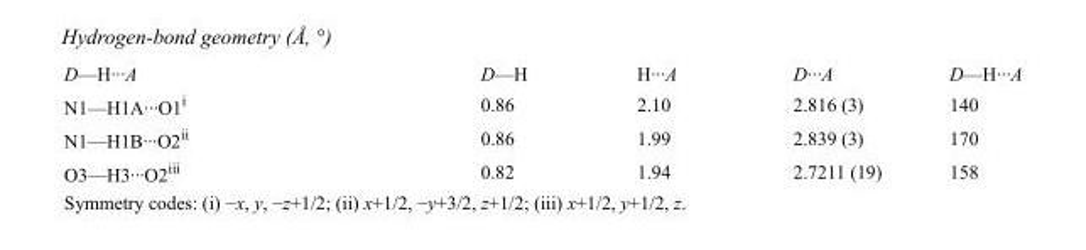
<table><tbody><tr><td>D—H···A</td><td>D—H</td><td>H···A</td><td>D···A</td><td>D—H···A</td></tr><tr><td>N1—H1A···O1<sup>i</sup></td><td>0.86</td><td>2.10</td><td>2.816 (3)</td><td>140</td></tr><tr><td>N1—H1B···O2<sup>ii</sup></td><td>0.86</td><td>1.99</td><td>2.839 (3)</td><td>170</td></tr><tr><td>O3—H3···O2<sup>iii</sup></td><td>0.82</td><td>1.94</td><td>2.7211 (19)</td><td>158</td></tr></tbody></table>